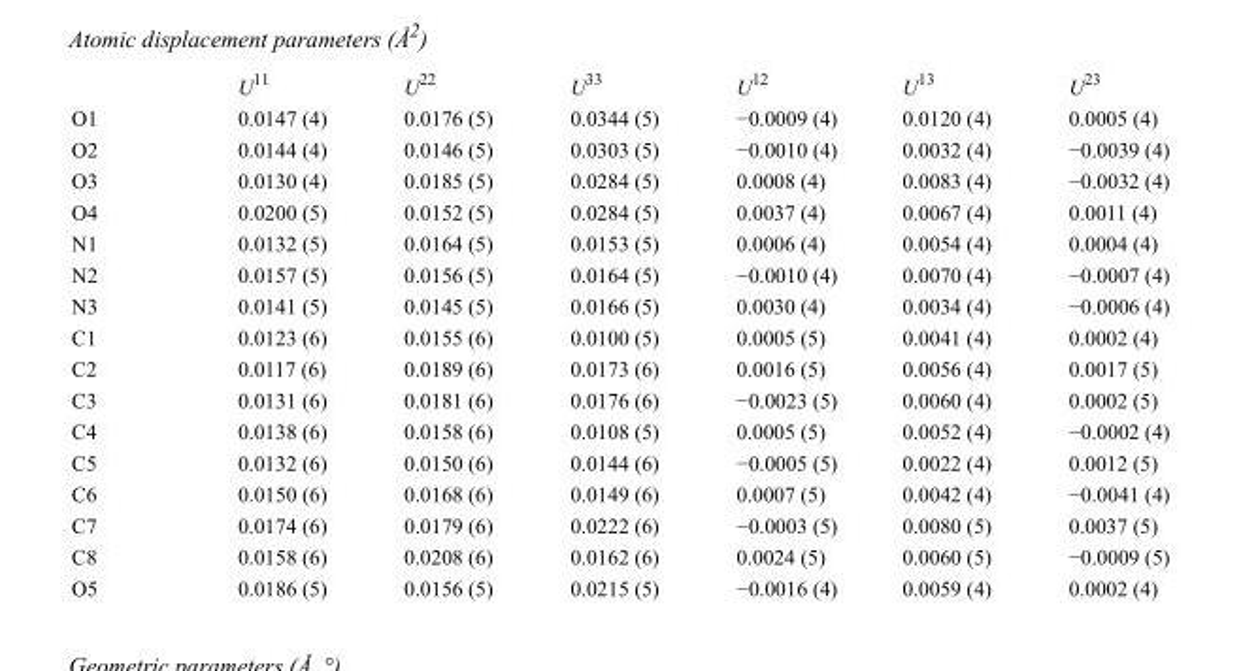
<table><thead><tr><td></td><td>U<sup>11</sup></td><td>U<sup>22</sup></td><td>U<sup>33</sup></td><td>U<sup>12</sup></td><td>U<sup>13</sup></td><td>U<sup>23</sup></td></tr></thead><tbody><tr><td>O1</td><td>0.0147 (4)</td><td>0.0176 (5)</td><td>0.0344 (5)</td><td>−0.0009 (4)</td><td>0.0120 (4)</td><td>0.0005 (4)</td></tr><tr><td>O2</td><td>0.0144 (4)</td><td>0.0146 (5)</td><td>0.0303 (5)</td><td>−0.0010 (4)</td><td>0.0032 (4)</td><td>−0.0039 (4)</td></tr><tr><td>O3</td><td>0.0130 (4)</td><td>0.0185 (5)</td><td>0.0284 (5)</td><td>0.0008 (4)</td><td>0.0083 (4)</td><td>−0.0032 (4)</td></tr><tr><td>O4</td><td>0.0200 (5)</td><td>0.0152 (5)</td><td>0.0284 (5)</td><td>0.0037 (4)</td><td>0.0067 (4)</td><td>0.0011 (4)</td></tr><tr><td>N1</td><td>0.0132 (5)</td><td>0.0164 (5)</td><td>0.0153 (5)</td><td>0.0006 (4)</td><td>0.0054 (4)</td><td>0.0004 (4)</td></tr><tr><td>N2</td><td>0.0157 (5)</td><td>0.0156 (5)</td><td>0.0164 (5)</td><td>−0.0010 (4)</td><td>0.0070 (4)</td><td>−0.0007 (4)</td></tr><tr><td>N3</td><td>0.0141 (5)</td><td>0.0145 (5)</td><td>0.0166 (5)</td><td>0.0030 (4)</td><td>0.0034 (4)</td><td>−0.0006 (4)</td></tr><tr><td>C1</td><td>0.0123 (6)</td><td>0.0155 (6)</td><td>0.0100 (5)</td><td>0.0005 (5)</td><td>0.0041 (4)</td><td>0.0002 (4)</td></tr><tr><td>C2</td><td>0.0117 (6)</td><td>0.0189 (6)</td><td>0.0173 (6)</td><td>0.0016 (5)</td><td>0.0056 (4)</td><td>0.0017 (5)</td></tr><tr><td>C3</td><td>0.0131 (6)</td><td>0.0181 (6)</td><td>0.0176 (6)</td><td>−0.0023 (5)</td><td>0.0060 (4)</td><td>0.0002 (5)</td></tr><tr><td>C4</td><td>0.0138 (6)</td><td>0.0158 (6)</td><td>0.0108 (5)</td><td>0.0005 (5)</td><td>0.0052 (4)</td><td>−0.0002 (4)</td></tr><tr><td>C5</td><td>0.0132 (6)</td><td>0.0150 (6)</td><td>0.0144 (6)</td><td>−0.0005 (5)</td><td>0.0022 (4)</td><td>0.0012 (5)</td></tr><tr><td>C6</td><td>0.0150 (6)</td><td>0.0168 (6)</td><td>0.0149 (6)</td><td>0.0007 (5)</td><td>0.0042 (4)</td><td>−0.0041 (4)</td></tr><tr><td>C7</td><td>0.0174 (6)</td><td>0.0179 (6)</td><td>0.0222 (6)</td><td>−0.0003 (5)</td><td>0.0080 (5)</td><td>0.0037 (5)</td></tr><tr><td>C8</td><td>0.0158 (6)</td><td>0.0208 (6)</td><td>0.0162 (6)</td><td>0.0024 (5)</td><td>0.0060 (5)</td><td>−0.0009 (5)</td></tr><tr><td>O5</td><td>0.0186 (5)</td><td>0.0156 (5)</td><td>0.0215 (5)</td><td>−0.0016 (4)</td><td>0.0059 (4)</td><td>0.0002 (4)</td></tr></tbody></table>